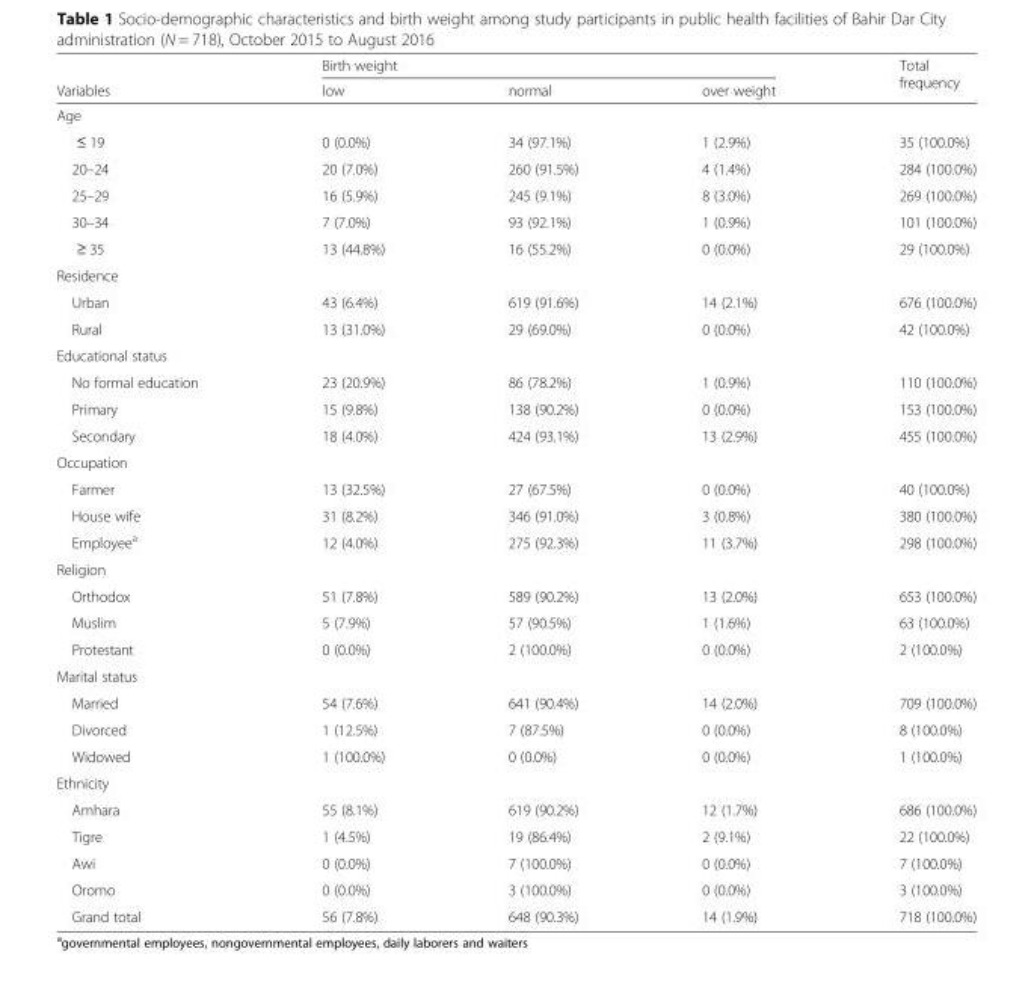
<table><thead><tr><td rowspan="2">Variables</td><td colspan="3">Birth weight</td><td rowspan="2">Total frequency</td></tr><tr><td>low</td><td>normal</td><td>over weight</td></tr></thead><tbody><tr><td colspan="5">Age</td></tr><tr><td>≤ 19</td><td>0 (0.0%)</td><td>34 (97.1%)</td><td>1 (2.9%)</td><td>35 (100.0%)</td></tr><tr><td>20–24</td><td>20 (7.0%)</td><td>260 (91.5%)</td><td>4 (1.4%)</td><td>284 (100.0%)</td></tr><tr><td>25–29</td><td>16 (5.9%)</td><td>245 (9.1%)</td><td>8 (3.0%)</td><td>269 (100.0%)</td></tr><tr><td>30–34</td><td>7 (7.0%)</td><td>93 (92.1%)</td><td>1 (0.9%)</td><td>101 (100.0%)</td></tr><tr><td>≥ 35</td><td>13 (44.8%)</td><td>16 (55.2%)</td><td>0 (0.0%)</td><td>29 (100.0%)</td></tr><tr><td colspan="5">Residence</td></tr><tr><td>Urban</td><td>43 (6.4%)</td><td>619 (91.6%)</td><td>14 (2.1%)</td><td>676 (100.0%)</td></tr><tr><td>Rural</td><td>13 (31.0%)</td><td>29 (69.0%)</td><td>0 (0.0%)</td><td>42 (100.0%)</td></tr><tr><td colspan="5">Educational status</td></tr><tr><td>No formal education</td><td>23 (20.9%)</td><td>86 (78.2%)</td><td>1 (0.9%)</td><td>110 (100.0%)</td></tr><tr><td>Primary</td><td>15 (9.8%)</td><td>138 (90.2%)</td><td>0 (0.0%)</td><td>153 (100.0%)</td></tr><tr><td>Secondary</td><td>18 (4.0%)</td><td>424 (93.1%)</td><td>13 (2.9%)</td><td>455 (100.0%)</td></tr><tr><td colspan="5">Occupation</td></tr><tr><td>Farmer</td><td>13 (32.5%)</td><td>27 (67.5%)</td><td>0 (0.0%)</td><td>40 (100.0%)</td></tr><tr><td>House wife</td><td>31 (8.2%)</td><td>346 (91.0%)</td><td>3 (0.8%)</td><td>380 (100.0%)</td></tr><tr><td>Employee<sup>a</sup></td><td>12 (4.0%)</td><td>275 (92.3%)</td><td>11 (3.7%)</td><td>298 (100.0%)</td></tr><tr><td colspan="5">Religion</td></tr><tr><td>Orthodox</td><td>51 (7.8%)</td><td>589 (90.2%)</td><td>13 (2.0%)</td><td>653 (100.0%)</td></tr><tr><td>Muslim</td><td>5 (7.9%)</td><td>57 (90.5%)</td><td>1 (1.6%)</td><td>63 (100.0%)</td></tr><tr><td>Protestant</td><td>0 (0.0%)</td><td>2 (100.0%)</td><td>0 (0.0%)</td><td>2 (100.0%)</td></tr><tr><td colspan="5">Marital status</td></tr><tr><td>Married</td><td>54 (7.6%)</td><td>641 (90.4%)</td><td>14 (2.0%)</td><td>709 (100.0%)</td></tr><tr><td>Divorced</td><td>1 (12.5%)</td><td>7 (87.5%)</td><td>0 (0.0%)</td><td>8 (100.0%)</td></tr><tr><td>Widowed</td><td>1 (100.0%)</td><td>0 (0.0%)</td><td>0 (0.0%)</td><td>1 (100.0%)</td></tr><tr><td colspan="5">Ethnicity</td></tr><tr><td>Amhara</td><td>55 (8.1%)</td><td>619 (90.2%)</td><td>12 (1.7%)</td><td>686 (100.0%)</td></tr><tr><td>Tigre</td><td>1 (4.5%)</td><td>19 (86.4%)</td><td>2 (9.1%)</td><td>22 (100.0%)</td></tr><tr><td>Awi</td><td>0 (0.0%)</td><td>7 (100.0%)</td><td>0 (0.0%)</td><td>7 (100.0%)</td></tr><tr><td>Oromo</td><td>0 (0.0%)</td><td>3 (100.0%)</td><td>0 (0.0%)</td><td>3 (100.0%)</td></tr><tr><td>Grand total</td><td>56 (7.8%)</td><td>648 (90.3%)</td><td>14 (1.9%)</td><td>718 (100.0%)</td></tr></tbody></table>